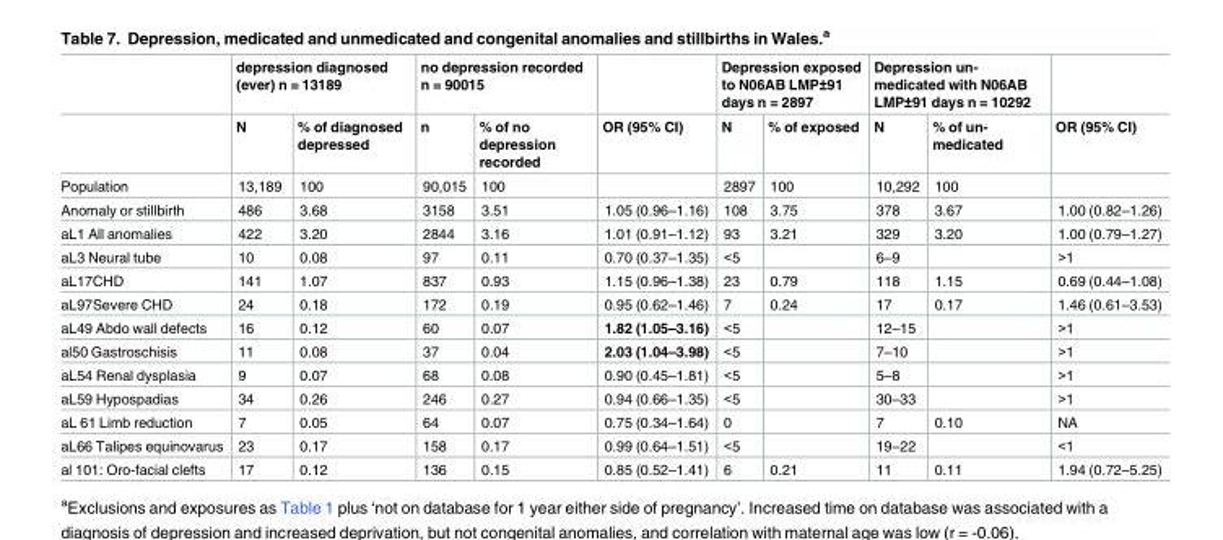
<table><thead><tr><td rowspan="2"></td><td colspan="2">depression diagnosed (ever) n = 13189</td><td colspan="2">no depression recorded n = 90015</td><td rowspan="2">OR (95% CI)</td><td colspan="2">Depression exposed to N06AB LMP±91 days n = 2897</td><td colspan="2">Depression un- medicated with N06AB LMP±91 days n = 10292</td><td rowspan="2">OR (95% CI)</td></tr><tr><td>N</td><td>% of diagnosed depressed</td><td>n</td><td>% of no depression recorded</td><td>N</td><td>% of exposed</td><td>N</td><td>% of un- medicated</td></tr></thead><tbody><tr><td>Population</td><td>13,189</td><td>100</td><td>90,015</td><td>100</td><td></td><td>2897</td><td>100</td><td>10,292</td><td>100</td><td></td></tr><tr><td>Anomaly or stillbirth</td><td>486</td><td>3.68</td><td>3158</td><td>3.51</td><td>1.05 (0.96–1.16)</td><td>108</td><td>3.75</td><td>378</td><td>3.67</td><td>1.00 (0.82–1.26)</td></tr><tr><td>aL1 All anomalies</td><td>422</td><td>3.20</td><td>2844</td><td>3.16</td><td>1.01 (0.91–1.12)</td><td>93</td><td>3.21</td><td>329</td><td>3.20</td><td>1.00 (0.79–1.27)</td></tr><tr><td>aL3 Neural tube</td><td>10</td><td>0.08</td><td>97</td><td>0.11</td><td>0.70 (0.37–1.35)</td><td>&lt;5</td><td></td><td>6–9</td><td></td><td>&gt;1</td></tr><tr><td>aL17CHD</td><td>141</td><td>1.07</td><td>837</td><td>0.93</td><td>1.15 (0.96–1.38)</td><td>23</td><td>0.79</td><td>118</td><td>1.15</td><td>0.69 (0.44–1.08)</td></tr><tr><td>aL97Severe CHD</td><td>24</td><td>0.18</td><td>172</td><td>0.19</td><td>0.95 (0.62–1.46)</td><td>7</td><td>0.24</td><td>17</td><td>0.17</td><td>1.46 (0.61–3.53)</td></tr><tr><td>aL49 Abdo wall defects</td><td>16</td><td>0.12</td><td>60</td><td>0.07</td><td>1.82 (1.05–3.16)</td><td>&lt;5</td><td></td><td>12–15</td><td></td><td>&gt;1</td></tr><tr><td>al50 Gastroschisis</td><td>11</td><td>0.08</td><td>37</td><td>0.04</td><td>2.03 (1.04–3.98)</td><td>&lt;5</td><td></td><td>7–10</td><td></td><td>&gt;1</td></tr><tr><td>aL54 Renal dysplasia</td><td>9</td><td>0.07</td><td>68</td><td>0.08</td><td>0.90 (0.45–1.81)</td><td>&lt;5</td><td></td><td>5–8</td><td></td><td>&gt;1</td></tr><tr><td>aL59 Hypospadias</td><td>34</td><td>0.26</td><td>246</td><td>0.27</td><td>0.94 (0.66–1.35)</td><td>&lt;5</td><td></td><td>30–33</td><td></td><td>&gt;1</td></tr><tr><td>aL 61 Limb reduction</td><td>7</td><td>0.05</td><td>64</td><td>0.07</td><td>0.75 (0.34–1.64)</td><td>0</td><td></td><td>7</td><td>0.10</td><td>NA</td></tr><tr><td>aL66 Talipes equinovarus</td><td>23</td><td>0.17</td><td>158</td><td>0.17</td><td>0.99 (0.64–1.51)</td><td>&lt;5</td><td></td><td>19–22</td><td></td><td>&lt;1</td></tr><tr><td>al 101: Oro-facial clefts</td><td>17</td><td>0.12</td><td>136</td><td>0.15</td><td>0.85 (0.52–1.41)</td><td>6</td><td>0.21</td><td>11</td><td>0.11</td><td>1.94 (0.72–5.25)</td></tr></tbody></table>